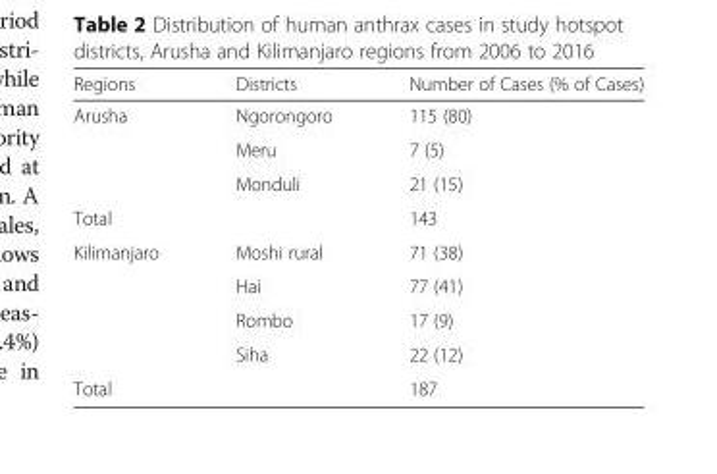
<table><thead><tr><td>Regions</td><td>Districts</td><td>Number of Cases (% of Cases)</td></tr></thead><tbody><tr><td rowspan="3">Arusha</td><td>Ngorongoro</td><td>115 (80)</td></tr><tr><td>Meru</td><td>7 (5)</td></tr><tr><td>Monduli</td><td>21 (15)</td></tr><tr><td>Total</td><td></td><td>143</td></tr><tr><td rowspan="4">Kilimanjaro</td><td>Moshi rural</td><td>71 (38)</td></tr><tr><td>Hai</td><td>77 (41)</td></tr><tr><td>Rombo</td><td>17 (9)</td></tr><tr><td>Siha</td><td>22 (12)</td></tr><tr><td>Total</td><td></td><td>187</td></tr></tbody></table>